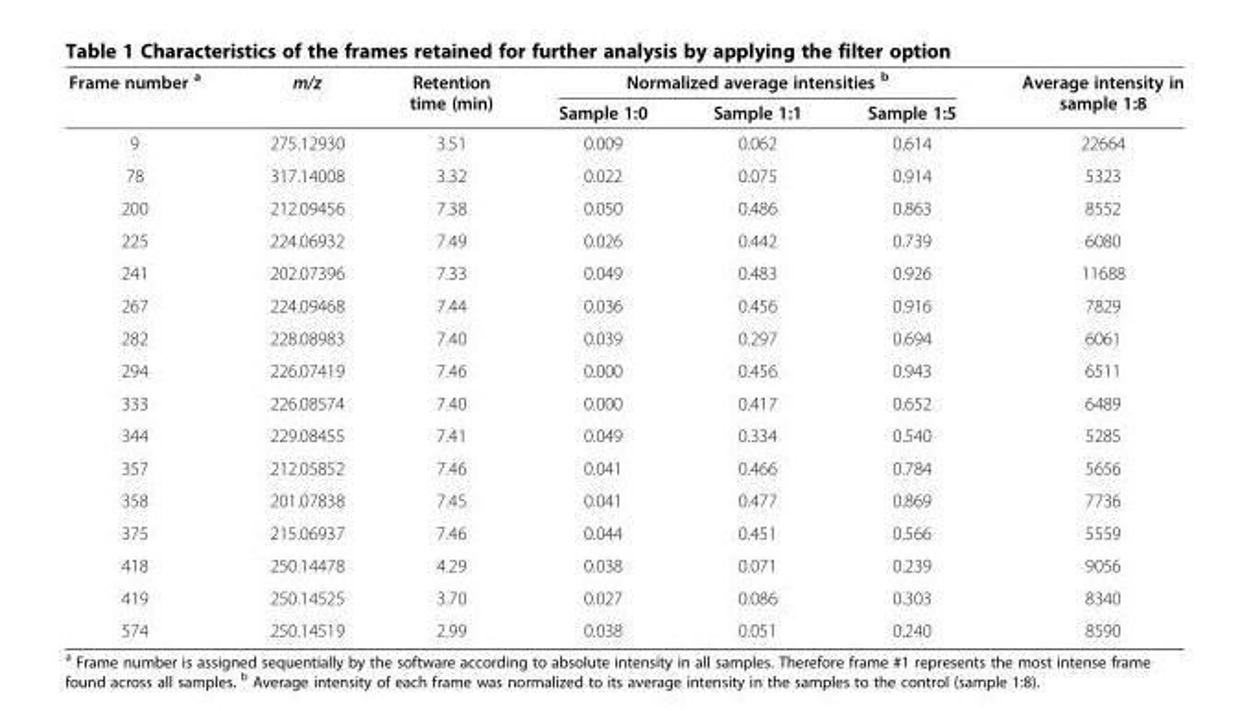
<table><thead><tr><td rowspan="2">Frame number <sup>a</sup></td><td rowspan="2">m/z</td><td rowspan="2">Retention time (min)</td><td colspan="3">Normalized average intensities <sup>b</sup></td><td rowspan="2">Average intensity in sample 1:8</td></tr><tr><td>Sample 1:0</td><td>Sample 1:1</td><td>Sample 1:5</td></tr></thead><tbody><tr><td>9</td><td>275.12930</td><td>3.51</td><td>0.009</td><td>0.062</td><td>0.614</td><td>22664</td></tr><tr><td>78</td><td>317.14008</td><td>3.32</td><td>0.022</td><td>0.075</td><td>0.914</td><td>5323</td></tr><tr><td>200</td><td>212.09456</td><td>7.38</td><td>0.050</td><td>0.486</td><td>0.863</td><td>8552</td></tr><tr><td>225</td><td>224.06932</td><td>7.49</td><td>0.026</td><td>0.442</td><td>0.739</td><td>6080</td></tr><tr><td>241</td><td>202.07396</td><td>7.33</td><td>0.049</td><td>0.483</td><td>0.926</td><td>11688</td></tr><tr><td>267</td><td>224.09468</td><td>7.44</td><td>0.036</td><td>0.456</td><td>0.916</td><td>7829</td></tr><tr><td>282</td><td>228.08983</td><td>7.40</td><td>0.039</td><td>0.297</td><td>0.694</td><td>6061</td></tr><tr><td>294</td><td>226.07419</td><td>7.46</td><td>0.000</td><td>0.456</td><td>0.943</td><td>6511</td></tr><tr><td>333</td><td>226.08574</td><td>7.40</td><td>0.000</td><td>0.417</td><td>0.652</td><td>6489</td></tr><tr><td>344</td><td>229.08455</td><td>7.41</td><td>0.049</td><td>0.334</td><td>0.540</td><td>5285</td></tr><tr><td>357</td><td>212.05852</td><td>7.46</td><td>0.041</td><td>0.466</td><td>0.784</td><td>5656</td></tr><tr><td>358</td><td>201.07838</td><td>7.45</td><td>0.041</td><td>0.477</td><td>0.869</td><td>7736</td></tr><tr><td>375</td><td>215.06937</td><td>7.46</td><td>0.044</td><td>0.451</td><td>0.566</td><td>5559</td></tr><tr><td>418</td><td>250.14478</td><td>4.29</td><td>0.038</td><td>0.071</td><td>0.239</td><td>9056</td></tr><tr><td>419</td><td>250.14525</td><td>3.70</td><td>0.027</td><td>0.086</td><td>0.303</td><td>8340</td></tr><tr><td>574</td><td>250.14519</td><td>2.99</td><td>0.038</td><td>0.051</td><td>0.240</td><td>8590</td></tr></tbody></table>